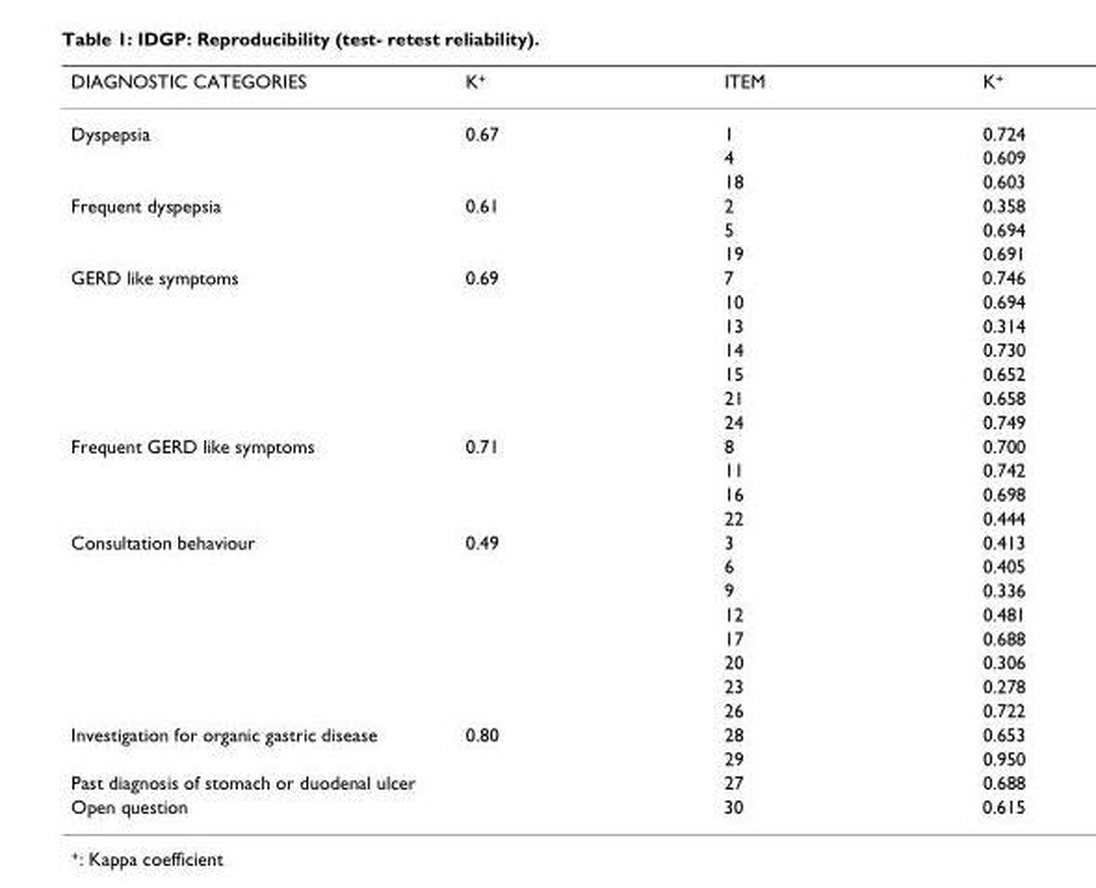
<table><thead><tr><td>DIAGNOSTIC CATEGORIES</td><td>K+</td><td>ITEM</td><td>K+</td></tr></thead><tbody><tr><td rowspan="3">Dyspepsia</td><td>0.67</td><td>1</td><td>0.724</td></tr><tr><td></td><td>4</td><td>0.609</td></tr><tr><td></td><td>18</td><td>0.603</td></tr><tr><td rowspan="3">Frequent dyspepsia</td><td>0.61</td><td>2</td><td>0.358</td></tr><tr><td></td><td>5</td><td>0.694</td></tr><tr><td></td><td>19</td><td>0.691</td></tr><tr><td rowspan="7">GERD like symptoms</td><td>0.69</td><td>7</td><td>0.746</td></tr><tr><td></td><td>10</td><td>0.694</td></tr><tr><td></td><td>13</td><td>0.314</td></tr><tr><td></td><td>14</td><td>0.730</td></tr><tr><td></td><td>15</td><td>0.652</td></tr><tr><td></td><td>21</td><td>0.658</td></tr><tr><td></td><td>24</td><td>0.749</td></tr><tr><td rowspan="4">Frequent GERD like symptoms</td><td>0.71</td><td>8</td><td>0.700</td></tr><tr><td></td><td>11</td><td>0.742</td></tr><tr><td></td><td>16</td><td>0.698</td></tr><tr><td></td><td>22</td><td>0.444</td></tr><tr><td rowspan="8">Consultation behaviour</td><td>0.49</td><td>3</td><td>0.413</td></tr><tr><td></td><td>6</td><td>0.405</td></tr><tr><td></td><td>9</td><td>0.336</td></tr><tr><td></td><td>12</td><td>0.481</td></tr><tr><td></td><td>17</td><td>0.688</td></tr><tr><td></td><td>20</td><td>0.306</td></tr><tr><td></td><td>23</td><td>0.278</td></tr><tr><td></td><td>26</td><td>0.722</td></tr><tr><td rowspan="2">Investigation for organic gastric disease</td><td>0.80</td><td>28</td><td>0.653</td></tr><tr><td></td><td>29</td><td>0.950</td></tr><tr><td colspan="2">Past diagnosis of stomach or duodenal ulcer</td><td>27</td><td>0.688</td></tr><tr><td colspan="2">Open question</td><td>30</td><td>0.615</td></tr></tbody></table>